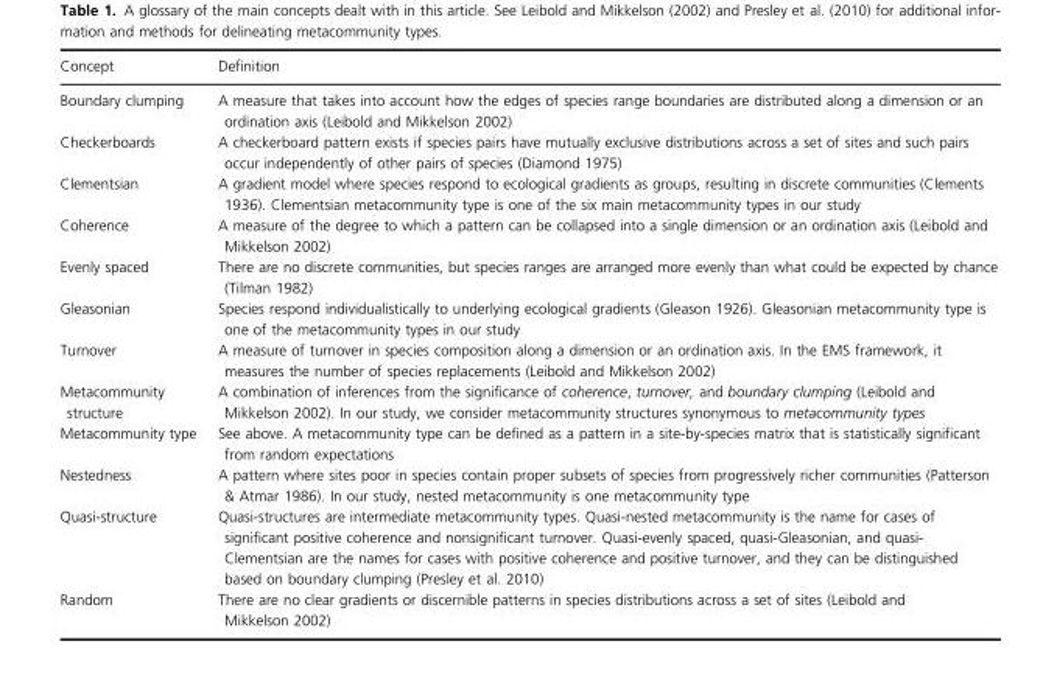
<table><thead><tr><td>Concept</td><td>Definition</td></tr></thead><tbody><tr><td>Boundary clumping</td><td>A measure that takes into account how the edges of species range boundaries are distributed along a dimension or an ordination axis (Leibold and Mikkelson 2002)</td></tr><tr><td>Checkerboards</td><td>A checkerboard pattern exists if species pairs have mutually exclusive distributions across a set of sites and such pairs occur independently of other pairs of species (Diamond 1975)</td></tr><tr><td>Clementsian</td><td>A gradient model where species respond to ecological gradients as groups, resulting in discrete communities (Clements 1936). Clementsian metacommunity type is one of the six main metacommunity types in our study</td></tr><tr><td>Coherence</td><td>A measure of the degree to which a pattern can be collapsed into a single dimension or an ordination axis (Leibold and Mikkelson 2002)</td></tr><tr><td>Evenly spaced</td><td>There are no discrete communities, but species ranges are arranged more evenly than what could be expected by chance (Tilman 1982)</td></tr><tr><td>Gleasonian</td><td>Species respond individualistically to underlying ecological gradients (Gleason 1926). Gleasonian metacommunity type is one of the metacommunity types in our study</td></tr><tr><td>Turnover</td><td>A measure of turnover in species composition along a dimension or an ordination axis. In the EMS framework, it measures the number of species replacements (Leibold and Mikkelson 2002)</td></tr><tr><td>Metacommunity structure</td><td>A combination of inferences from the significance of coherence, turnover, and boundary clumping (Leibold and Mikkelson 2002). In our study, we consider metacommunity structures synonymous to metacommunity types</td></tr><tr><td>Metacommunity type</td><td>See above. A metacommunity type can be defined as a pattern in a site-by-species matrix that is statistically significant from random expectations</td></tr><tr><td>Nestedness</td><td>A pattern where sites poor in species contain proper subsets of species from progressively richer communities (Patterson &amp; Atmar 1986). In our study, nested metacommunity is one metacommunity type</td></tr><tr><td>Quasi-structure</td><td>Quasi-structures are intermediate metacommunity types. Quasi-nested metacommunity is the name for cases of significant positive coherence and nonsignificant turnover. Quasi-evenly spaced, quasi-Gleasonian, and quasi- Clementsian are the names for cases with positive coherence and positive turnover, and they can be distinguished based on boundary clumping (Presley et al. 2010)</td></tr><tr><td>Random</td><td>There are no clear gradients or discernible patterns in species distributions across a set of sites (Leibold and Mikkelson 2002)</td></tr></tbody></table>